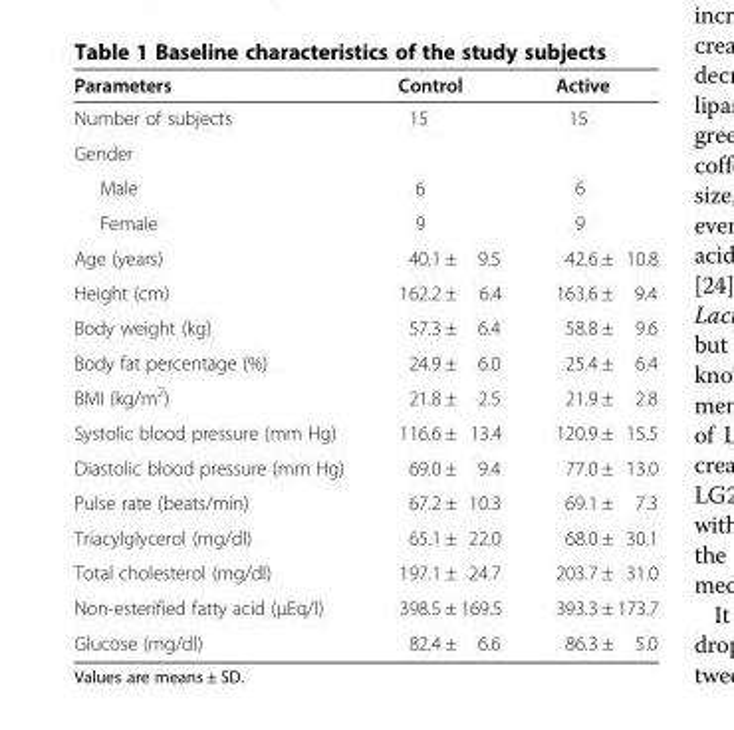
<table><thead><tr><td>Parameters</td><td>Control</td><td>Active</td></tr></thead><tbody><tr><td>Number of subjects</td><td>15</td><td>15</td></tr><tr><td colspan="3">Gender</td></tr><tr><td>Male</td><td>6</td><td>6</td></tr><tr><td>Female</td><td>9</td><td>9</td></tr><tr><td>Age (years)</td><td>40.1 ± 9.5</td><td>42.6 ± 10.8</td></tr><tr><td>Height (cm)</td><td>162.2 ± 6.4</td><td>163.6 ± 9.4</td></tr><tr><td>Body weight (kg)</td><td>57.3 ± 6.4</td><td>58.8 ± 9.6</td></tr><tr><td>Body fat percentage (%)</td><td>24.9 ± 6.0</td><td>25.4 ± 6.4</td></tr><tr><td>BMI (kg/m<sup>2</sup>)</td><td>21.8 ± 2.5</td><td>21.9 ± 2.8</td></tr><tr><td>Systolic blood pressure (mm Hg)</td><td>116.6 ± 13.4</td><td>120.9 ± 15.5</td></tr><tr><td>Diastolic blood pressure (mm Hg)</td><td>69.0 ± 9.4</td><td>77.0 ± 13.0</td></tr><tr><td>Pulse rate (beats/min)</td><td>67.2 ± 10.3</td><td>69.1 ± 7.3</td></tr><tr><td>Triacylglycerol (mg/dl)</td><td>65.1 ± 22.0</td><td>68.0 ± 30.1</td></tr><tr><td>Total cholesterol (mg/dl)</td><td>197.1 ± 24.7</td><td>203.7 ± 31.0</td></tr><tr><td>Non-esterified fatty acid (μEq/l)</td><td>398.5 ± 169.5</td><td>393.3 ± 173.7</td></tr><tr><td>Glucose (mg/dl)</td><td>82.4 ± 6.6</td><td>86.3 ± 5.0</td></tr></tbody></table>